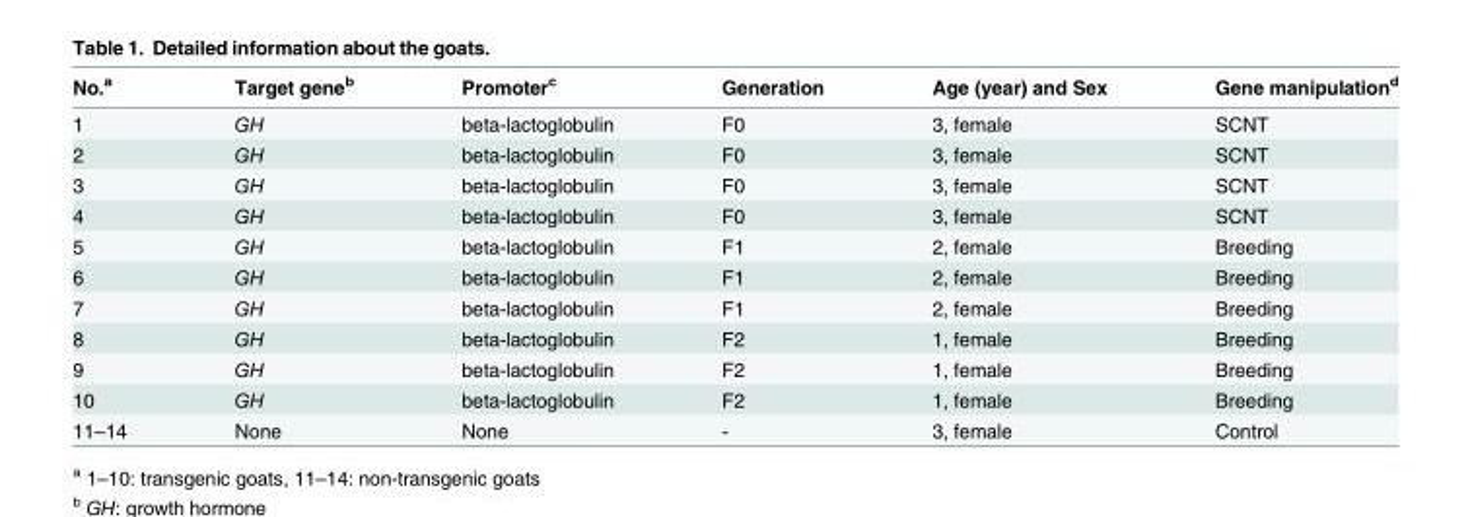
<table><thead><tr><td>No.<sup>a</sup></td><td>Target gene<sup>b</sup></td><td>Promoter<sup>c</sup></td><td>Generation</td><td>Age (year) and Sex</td><td>Gene manipulation<sup>d</sup></td></tr></thead><tbody><tr><td>1</td><td>GH</td><td>beta-lactoglobulin</td><td>F0</td><td>3, female</td><td>SCNT</td></tr><tr><td>2</td><td>GH</td><td>beta-lactoglobulin</td><td>F0</td><td>3, female</td><td>SCNT</td></tr><tr><td>3</td><td>GH</td><td>beta-lactoglobulin</td><td>F0</td><td>3, female</td><td>SCNT</td></tr><tr><td>4</td><td>GH</td><td>beta-lactoglobulin</td><td>F0</td><td>3, female</td><td>SCNT</td></tr><tr><td>5</td><td>GH</td><td>beta-lactoglobulin</td><td>F1</td><td>2, female</td><td>Breeding</td></tr><tr><td>6</td><td>GH</td><td>beta-lactoglobulin</td><td>F1</td><td>2, female</td><td>Breeding</td></tr><tr><td>7</td><td>GH</td><td>beta-lactoglobulin</td><td>F1</td><td>2, female</td><td>Breeding</td></tr><tr><td>8</td><td>GH</td><td>beta-lactoglobulin</td><td>F2</td><td>1, female</td><td>Breeding</td></tr><tr><td>9</td><td>GH</td><td>beta-lactoglobulin</td><td>F2</td><td>1, female</td><td>Breeding</td></tr><tr><td>10</td><td>GH</td><td>beta-lactoglobulin</td><td>F2</td><td>1, female</td><td>Breeding</td></tr><tr><td>11–14</td><td>None</td><td>None</td><td>-</td><td>3, female</td><td>Control</td></tr></tbody></table>